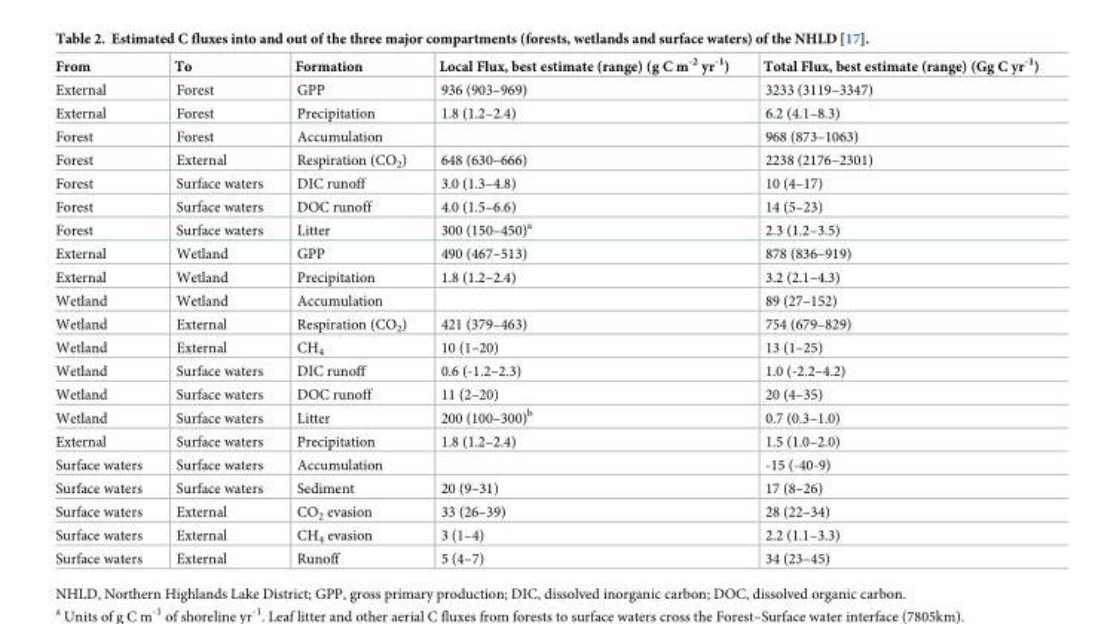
<table><thead><tr><td>From</td><td>To</td><td>Formation</td><td>Local Flux, best estimate (range) (g C m<sup>-2</sup> yr<sup>-1</sup>)</td><td>Total Flux, best estimate (range) (Gg C yr<sup>-1</sup>)</td></tr></thead><tbody><tr><td>External</td><td>Forest</td><td>GPP</td><td>936 (903–969)</td><td>3233 (3119–3347)</td></tr><tr><td>External</td><td>Forest</td><td>Precipitation</td><td>1.8 (1.2–2.4)</td><td>6.2 (4.1–8.3)</td></tr><tr><td>Forest</td><td>Forest</td><td>Accumulation</td><td></td><td>968 (873–1063)</td></tr><tr><td>Forest</td><td>External</td><td>Respiration (CO<sub>2</sub>)</td><td>648 (630–666)</td><td>2238 (2176–2301)</td></tr><tr><td>Forest</td><td>Surface waters</td><td>DIC runoff</td><td>3.0 (1.3–4.8)</td><td>10 (4–17)</td></tr><tr><td>Forest</td><td>Surface waters</td><td>DOC runoff</td><td>4.0 (1.5–6.6)</td><td>14 (5–23)</td></tr><tr><td>Forest</td><td>Surface waters</td><td>Litter</td><td>300 (150–450)<sup>a</sup></td><td>2.3 (1.2–3.5)</td></tr><tr><td>External</td><td>Wetland</td><td>GPP</td><td>490 (467–513)</td><td>878 (836–919)</td></tr><tr><td>External</td><td>Wetland</td><td>Precipitation</td><td>1.8 (1.2–2.4)</td><td>3.2 (2.1–4.3)</td></tr><tr><td>Wetland</td><td>Wetland</td><td>Accumulation</td><td></td><td>89 (27–152)</td></tr><tr><td>Wetland</td><td>External</td><td>Respiration (CO<sub>2</sub>)</td><td>421 (379–463)</td><td>754 (679–829)</td></tr><tr><td>Wetland</td><td>External</td><td>CH<sub>4</sub></td><td>10 (1–20)</td><td>13 (1–25)</td></tr><tr><td>Wetland</td><td>Surface waters</td><td>DIC runoff</td><td>0.6 (-1.2–2.3)</td><td>1.0 (-2.2–4.2)</td></tr><tr><td>Wetland</td><td>Surface waters</td><td>DOC runoff</td><td>11 (2–20)</td><td>20 (4–35)</td></tr><tr><td>Wetland</td><td>Surface waters</td><td>Litter</td><td>200 (100–300)<sup>b</sup></td><td>0.7 (0.3–1.0)</td></tr><tr><td>External</td><td>Surface waters</td><td>Precipitation</td><td>1.8 (1.2–2.4)</td><td>1.5 (1.0–2.0)</td></tr><tr><td>Surface waters</td><td>Surface waters</td><td>Accumulation</td><td></td><td>-15 (-40-9)</td></tr><tr><td>Surface waters</td><td>Surface waters</td><td>Sediment</td><td>20 (9–31)</td><td>17 (8–26)</td></tr><tr><td>Surface waters</td><td>External</td><td>CO<sub>2</sub> evasion</td><td>33 (26–39)</td><td>28 (22–34)</td></tr><tr><td>Surface waters</td><td>External</td><td>CH<sub>4</sub> evasion</td><td>3 (1–4)</td><td>2.2 (1.1–3.3)</td></tr><tr><td>Surface waters</td><td>External</td><td>Runoff</td><td>5 (4–7)</td><td>34 (23–45)</td></tr></tbody></table>